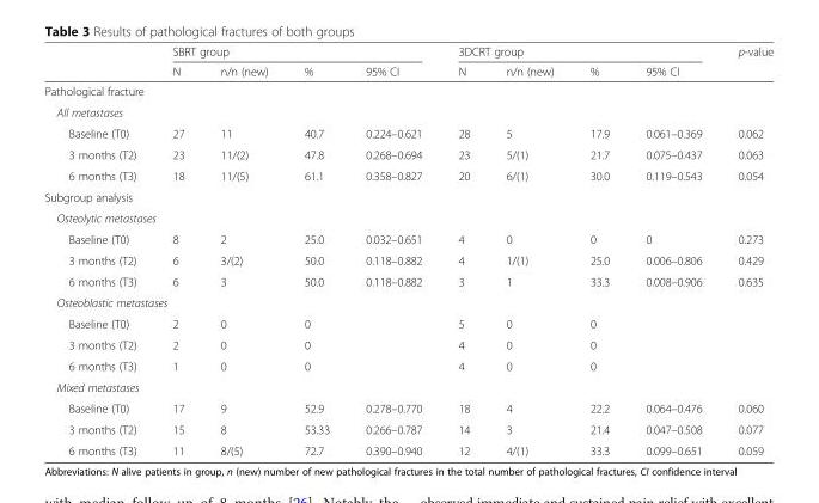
<table><thead><tr><td rowspan="2"></td><td colspan="4">SBRT group</td><td colspan="4">3DCRT group</td><td rowspan="2">p-value</td></tr><tr><td>N</td><td>n/n (new)</td><td>%</td><td>95% CI</td><td>N</td><td>n/n (new)</td><td>%</td><td>95% CI</td></tr></thead><tbody><tr><td colspan="10">Pathological fracture</td></tr><tr><td colspan="10">All metastases</td></tr><tr><td>Baseline (T0)</td><td>27</td><td>11</td><td>40.7</td><td>0.224–0.621</td><td>28</td><td>5</td><td>17.9</td><td>0.061–0.369</td><td>0.062</td></tr><tr><td>3 months (T2)</td><td>23</td><td>11/(2)</td><td>47.8</td><td>0.268–0.694</td><td>23</td><td>5/(1)</td><td>21.7</td><td>0.075–0.437</td><td>0.063</td></tr><tr><td>6 months (T3)</td><td>18</td><td>11/(5)</td><td>61.1</td><td>0.358–0.827</td><td>20</td><td>6/(1)</td><td>30.0</td><td>0.119–0.543</td><td>0.054</td></tr><tr><td colspan="10">Subgroup analysis</td></tr><tr><td colspan="10">Osteolytic metastases</td></tr><tr><td>Baseline (T0)</td><td>8</td><td>2</td><td>25.0</td><td>0.032–0.651</td><td>4</td><td>0</td><td>0</td><td>0</td><td>0.273</td></tr><tr><td>3 months (T2)</td><td>6</td><td>3/(2)</td><td>50.0</td><td>0.118–0.882</td><td>4</td><td>1/(1)</td><td>25.0</td><td>0.006–0.806</td><td>0.429</td></tr><tr><td>6 months (T3)</td><td>6</td><td>3</td><td>50.0</td><td>0.118–0.882</td><td>3</td><td>1</td><td>33.3</td><td>0.008–0.906</td><td>0.635</td></tr><tr><td colspan="10">Osteoblastic metastases</td></tr><tr><td>Baseline (T0)</td><td>2</td><td>0</td><td>0</td><td></td><td>5</td><td>0</td><td>0</td><td></td><td></td></tr><tr><td>3 months (T2)</td><td>2</td><td>0</td><td>0</td><td></td><td>4</td><td>0</td><td>0</td><td></td><td></td></tr><tr><td>6 months (T3)</td><td>1</td><td>0</td><td>0</td><td></td><td>4</td><td>0</td><td>0</td><td></td><td></td></tr><tr><td colspan="10">Mixed metastases</td></tr><tr><td>Baseline (T0)</td><td>17</td><td>9</td><td>52.9</td><td>0.278–0.770</td><td>18</td><td>4</td><td>22.2</td><td>0.064–0.476</td><td>0.060</td></tr><tr><td>3 months (T2)</td><td>15</td><td>8</td><td>53.33</td><td>0.266–0.787</td><td>14</td><td>3</td><td>21.4</td><td>0.047–0.508</td><td>0.077</td></tr><tr><td>6 months (T3)</td><td>11</td><td>8/(5)</td><td>72.7</td><td>0.390–0.940</td><td>12</td><td>4/(1)</td><td>33.3</td><td>0.099–0.651</td><td>0.059</td></tr></tbody></table>